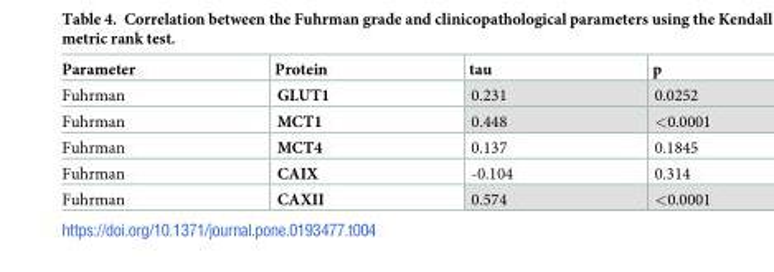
<table><thead><tr><td>Parameter</td><td>Protein</td><td>tau</td><td>p</td></tr></thead><tbody><tr><td>Fuhrman</td><td>GLUT1</td><td>0.231</td><td>0.0252</td></tr><tr><td>Fuhrman</td><td>MCT1</td><td>0.448</td><td>&lt;0.0001</td></tr><tr><td>Fuhrman</td><td>MCT4</td><td>0.137</td><td>0.1845</td></tr><tr><td>Fuhrman</td><td>CAIX</td><td>-0.104</td><td>0.314</td></tr><tr><td>Fuhrman</td><td>CAXII</td><td>0.574</td><td>&lt;0.0001</td></tr></tbody></table>